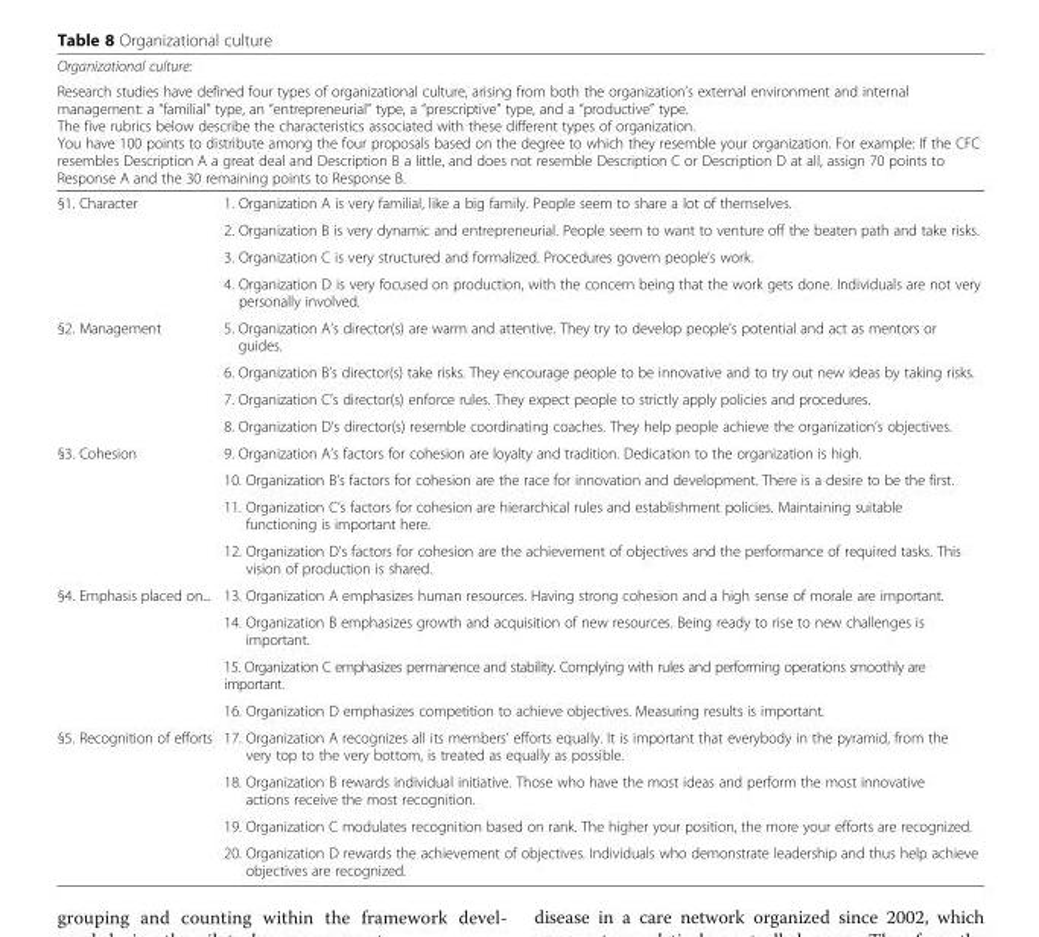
<table><thead><tr><td>Organizational culture:</td><td></td></tr><tr><td colspan="2">Research studies have defined four types of organizational culture, arising from both the organization’s external environment and internal management: a “familial” type, an “entrepreneurial” type, a “prescriptive” type, and a “productive” type. The five rubrics below describe the characteristics associated with these different types of organization. You have 100 points to distribute among the four proposals based on the degree to which they resemble your organization. For example: If the CFC resembles Description A a great deal and Description B a little, and does not resemble Description C or Description D at all, assign 70 points to Response A and the 30 remaining points to Response B.</td></tr></thead><tbody><tr><td rowspan="4">§1. Character</td><td>1. Organization A is very familial, like a big family. People seem to share a lot of themselves.</td></tr><tr><td>2. Organization B is very dynamic and entrepreneurial. People seem to want to venture off the beaten path and take risks.</td></tr><tr><td>3. Organization C is very structured and formalized. Procedures govern people’s work.</td></tr><tr><td>4. Organization D is very focused on production, with the concern being that the work gets done. Individuals are not very personally involved.</td></tr><tr><td rowspan="4">§2. Management</td><td>5. Organization A’s director(s) are warm and attentive. They try to develop people’s potential and act as mentors or guides.</td></tr><tr><td>6. Organization B’s director(s) take risks. They encourage people to be innovative and to try out new ideas by taking risks.</td></tr><tr><td>7. Organization C’s director(s) enforce rules. They expect people to strictly apply policies and procedures.</td></tr><tr><td>8. Organization D’s director(s) resemble coordinating coaches. They help people achieve the organization’s objectives.</td></tr><tr><td rowspan="4">§3. Cohesion</td><td>9. Organization A’s factors for cohesion are loyalty and tradition. Dedication to the organization is high.</td></tr><tr><td>10. Organization B’s factors for cohesion are the race for innovation and development. There is a desire to be the first.</td></tr><tr><td>11. Organization C’s factors for cohesion are hierarchical rules and establishment policies. Maintaining suitable functioning is important here.</td></tr><tr><td>12. Organization D’s factors for cohesion are the achievement of objectives and the performance of required tasks. This vision of production is shared.</td></tr><tr><td rowspan="4">§4. Emphasis placed on...</td><td>13. Organization A emphasizes human resources. Having strong cohesion and a high sense of morale are important.</td></tr><tr><td>14. Organization B emphasizes growth and acquisition of new resources. Being ready to rise to new challenges is important.</td></tr><tr><td>15. Organization C emphasizes permanence and stability. Complying with rules and performing operations smoothly are important.</td></tr><tr><td>16. Organization D emphasizes competition to achieve objectives. Measuring results is important.</td></tr><tr><td rowspan="4">§5. Recognition of efforts</td><td>17. Organization A recognizes all its members’ efforts equally. It is important that everybody in the pyramid, from the very top to the very bottom, is treated as equally as possible.</td></tr><tr><td>18. Organization B rewards individual initiative. Those who have the most ideas and perform the most innovative actions receive the most recognition.</td></tr><tr><td>19. Organization C modulates recognition based on rank. The higher your position, the more your efforts are recognized.</td></tr><tr><td>20. Organization D rewards the achievement of objectives. Individuals who demonstrate leadership and thus help achieve objectives are recognized.</td></tr></tbody></table>